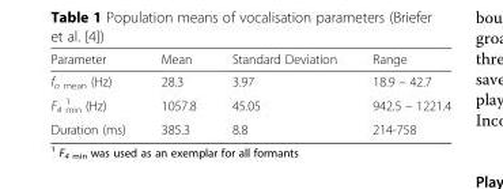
<table><thead><tr><td>Parameter</td><td>Mean</td><td>Standard Deviation</td><td>Range</td></tr></thead><tbody><tr><td>f<sub>o mean</sub> (Hz)</td><td>28.3</td><td>3.97</td><td>18.9 – 42.7</td></tr><tr><td>F<sub>4 min</sub> <sup>1</sup> (Hz)</td><td>1057.8</td><td>45.05</td><td>942.5 – 1221.4</td></tr><tr><td>Duration (ms)</td><td>385.3</td><td>8.8</td><td>214-758</td></tr></tbody></table>